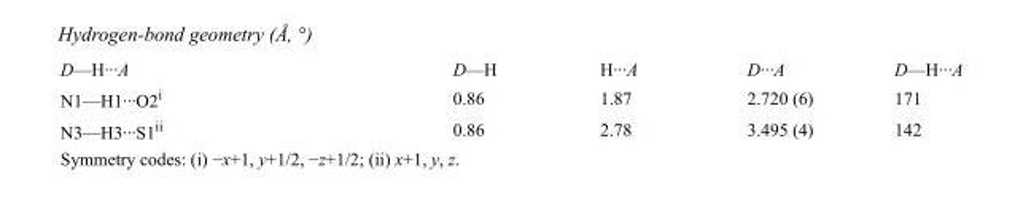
<table><tbody><tr><td>D—H···A</td><td>D—H</td><td>H···A</td><td>D···A</td><td>D—H···A</td></tr><tr><td>N1—H1···O2<sup>i</sup></td><td>0.86</td><td>1.87</td><td>2.720 (6)</td><td>171</td></tr><tr><td>N3—H3···S1<sup>ii</sup></td><td>0.86</td><td>2.78</td><td>3.495 (4)</td><td>142</td></tr></tbody></table>